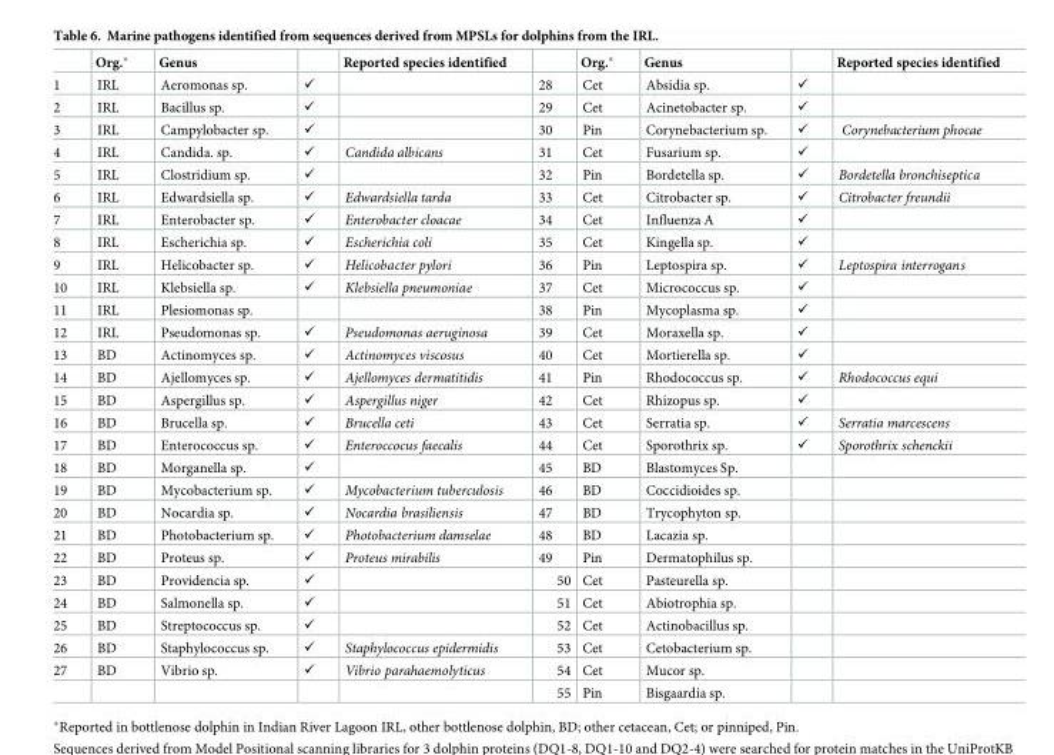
<table><thead><tr><td></td><td>Org.*</td><td>Genus</td><td></td><td>Reported species identified</td><td></td><td>Org.*</td><td>Genus</td><td></td><td>Reported species identified</td></tr></thead><tbody><tr><td>1</td><td>IRL</td><td>Aeromonas sp.</td><td>✓</td><td></td><td>28</td><td>Cet</td><td>Absidia sp.</td><td>✓</td><td></td></tr><tr><td>2</td><td>IRL</td><td>Bacillus sp.</td><td>✓</td><td></td><td>29</td><td>Cet</td><td>Acinetobacter sp.</td><td>✓</td><td></td></tr><tr><td>3</td><td>IRL</td><td>Campylobacter sp.</td><td>✓</td><td></td><td>30</td><td>Pin</td><td>Corynebacterium sp.</td><td>✓</td><td>Corynebacterium phocae</td></tr><tr><td>4</td><td>IRL</td><td>Candida. sp.</td><td>✓</td><td>Candida albicans</td><td>31</td><td>Cet</td><td>Fusarium sp.</td><td>✓</td><td></td></tr><tr><td>5</td><td>IRL</td><td>Clostridium sp.</td><td>✓</td><td></td><td>32</td><td>Pin</td><td>Bordetella sp.</td><td>✓</td><td>Bordetella bronchiseptica</td></tr><tr><td>6</td><td>IRL</td><td>Edwardsiella sp.</td><td>✓</td><td>Edwardsiella tarda</td><td>33</td><td>Cet</td><td>Citrobacter sp.</td><td>✓</td><td>Citrobacter freundii</td></tr><tr><td>7</td><td>IRL</td><td>Enterobacter sp.</td><td>✓</td><td>Enterobacter cloacae</td><td>34</td><td>Cet</td><td>Influenza A</td><td>✓</td><td></td></tr><tr><td>8</td><td>IRL</td><td>Escherichia sp.</td><td>✓</td><td>Escherichia coli</td><td>35</td><td>Cet</td><td>Kingella sp.</td><td>✓</td><td></td></tr><tr><td>9</td><td>IRL</td><td>Helicobacter sp.</td><td>✓</td><td>Helicobacter pylori</td><td>36</td><td>Pin</td><td>Leptospira sp.</td><td>✓</td><td>Leptospira interrogans</td></tr><tr><td>10</td><td>IRL</td><td>Klebsiella sp.</td><td>✓</td><td>Klebsiella pneumoniae</td><td>37</td><td>Cet</td><td>Micrococcus sp.</td><td>✓</td><td></td></tr><tr><td>11</td><td>IRL</td><td>Plesiomonas sp.</td><td></td><td></td><td>38</td><td>Pin</td><td>Mycoplasma sp.</td><td>✓</td><td></td></tr><tr><td>12</td><td>IRL</td><td>Pseudomonas sp.</td><td>✓</td><td>Pseudomonas aeruginosa</td><td>39</td><td>Cet</td><td>Moraxella sp.</td><td>✓</td><td></td></tr><tr><td>13</td><td>BD</td><td>Actinomyces sp.</td><td>✓</td><td>Actinomyces viscosus</td><td>40</td><td>Cet</td><td>Mortierella sp.</td><td>✓</td><td></td></tr><tr><td>14</td><td>BD</td><td>Ajellomyces sp.</td><td>✓</td><td>Ajellomyces dermatitidis</td><td>41</td><td>Pin</td><td>Rhodococcus sp.</td><td>✓</td><td>Rhodococcus equi</td></tr><tr><td>15</td><td>BD</td><td>Aspergillus sp.</td><td>✓</td><td>Aspergillus niger</td><td>42</td><td>Cet</td><td>Rhizopus sp.</td><td>✓</td><td></td></tr><tr><td>16</td><td>BD</td><td>Brucella sp.</td><td>✓</td><td>Brucella ceti</td><td>43</td><td>Cet</td><td>Serratia sp.</td><td>✓</td><td>Serratia marcescens</td></tr><tr><td>17</td><td>BD</td><td>Enterococcus sp.</td><td>✓</td><td>Enteroccocus faecalis</td><td>44</td><td>Cet</td><td>Sporothrix sp.</td><td>✓</td><td>Sporothrix schenckii</td></tr><tr><td>18</td><td>BD</td><td>Morganella sp.</td><td>✓</td><td></td><td>45</td><td>BD</td><td>Blastomyces Sp.</td><td></td><td></td></tr><tr><td>19</td><td>BD</td><td>Mycobacterium sp.</td><td>✓</td><td>Mycobacterium tuberculosis</td><td>46</td><td>BD</td><td>Coccidioides sp.</td><td></td><td></td></tr><tr><td>20</td><td>BD</td><td>Nocardia sp.</td><td>✓</td><td>Nocardia brasiliensis</td><td>47</td><td>BD</td><td>Trycophyton sp.</td><td></td><td></td></tr><tr><td>21</td><td>BD</td><td>Photobacterium sp.</td><td>✓</td><td>Photobacterium damselae</td><td>48</td><td>BD</td><td>Lacazia sp.</td><td></td><td></td></tr><tr><td>22</td><td>BD</td><td>Proteus sp.</td><td>✓</td><td>Proteus mirabilis</td><td>49</td><td>Pin</td><td>Dermatophilus sp.</td><td></td><td></td></tr><tr><td>23</td><td>BD</td><td>Providencia sp.</td><td>✓</td><td></td><td>50</td><td>Cet</td><td>Pasteurella sp.</td><td></td><td></td></tr><tr><td>24</td><td>BD</td><td>Salmonella sp.</td><td>✓</td><td></td><td>51</td><td>Cet</td><td>Abiotrophia sp.</td><td></td><td></td></tr><tr><td>25</td><td>BD</td><td>Streptococcus sp.</td><td>✓</td><td></td><td>52</td><td>Cet</td><td>Actinobacillus sp.</td><td></td><td></td></tr><tr><td>26</td><td>BD</td><td>Staphylococcus sp.</td><td>✓</td><td>Staphylococcus epidermidis</td><td>53</td><td>Cet</td><td>Cetobacterium sp.</td><td></td><td></td></tr><tr><td rowspan="2">27</td><td>BD</td><td>Vibrio sp.</td><td>✓</td><td>Vibrio parahaemolyticus</td><td>54</td><td>Cet</td><td>Mucor sp.</td><td></td><td></td></tr><tr><td></td><td></td><td></td><td></td><td>55</td><td>Pin</td><td>Bisgaardia sp.</td><td></td><td></td></tr></tbody></table>